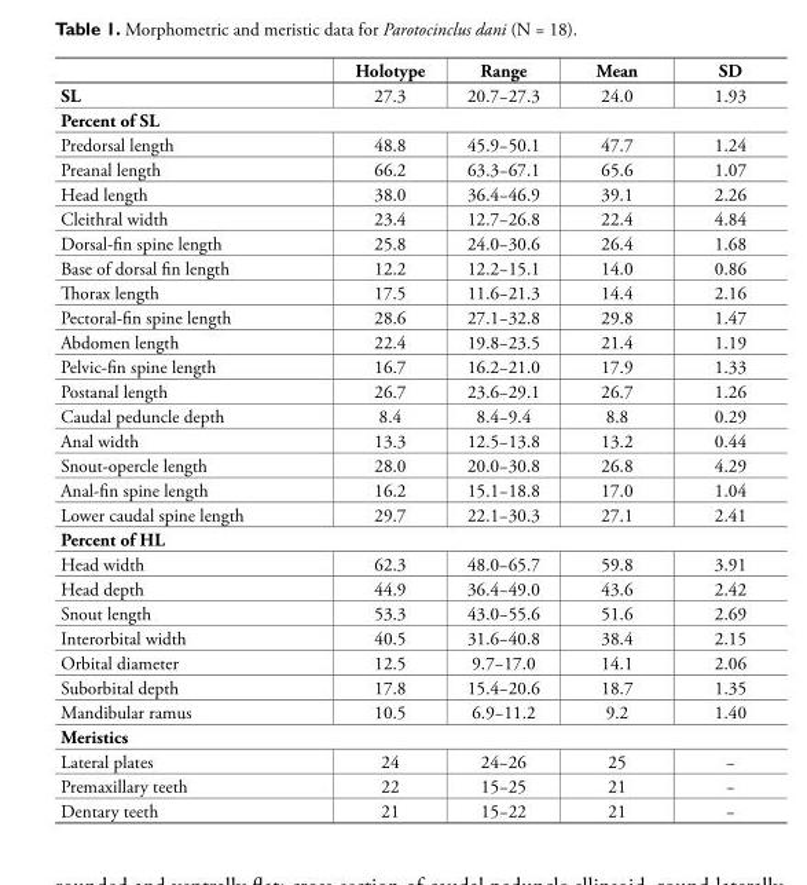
<table><thead><tr><td></td><td>Holotype</td><td>Range</td><td>Mean</td><td>SD</td></tr></thead><tbody><tr><td>SL</td><td>27.3</td><td>20.7−27.3</td><td>24.0</td><td>1.93</td></tr><tr><td colspan="5">Percent of SL</td></tr><tr><td>Predorsal length</td><td>48.8</td><td>45.9−50.1</td><td>47.7</td><td>1.24</td></tr><tr><td>Preanal length</td><td>66.2</td><td>63.3−67.1</td><td>65.6</td><td>1.07</td></tr><tr><td>Head length</td><td>38.0</td><td>36.4−46.9</td><td>39.1</td><td>2.26</td></tr><tr><td>Cleithral width</td><td>23.4</td><td>12.7−26.8</td><td>22.4</td><td>4.84</td></tr><tr><td>Dorsal-fin spine length</td><td>25.8</td><td>24.0−30.6</td><td>26.4</td><td>1.68</td></tr><tr><td>Base of dorsal fin length</td><td>12.2</td><td>12.2−15.1</td><td>14.0</td><td>0.86</td></tr><tr><td>Thorax length</td><td>17.5</td><td>11.6−21.3</td><td>14.4</td><td>2.16</td></tr><tr><td>Pectoral-fin spine length</td><td>28.6</td><td>27.1−32.8</td><td>29.8</td><td>1.47</td></tr><tr><td>Abdomen length</td><td>22.4</td><td>19.8−23.5</td><td>21.4</td><td>1.19</td></tr><tr><td>Pelvic-fin spine length</td><td>16.7</td><td>16.2−21.0</td><td>17.9</td><td>1.33</td></tr><tr><td>Postanal length</td><td>26.7</td><td>23.6−29.1</td><td>26.7</td><td>1.26</td></tr><tr><td>Caudal peduncle depth</td><td>8.4</td><td>8.4−9.4</td><td>8.8</td><td>0.29</td></tr><tr><td>Anal width</td><td>13.3</td><td>12.5−13.8</td><td>13.2</td><td>0.44</td></tr><tr><td>Snout-opercle length</td><td>28.0</td><td>20.0−30.8</td><td>26.8</td><td>4.29</td></tr><tr><td>Anal-fin spine length</td><td>16.2</td><td>15.1−18.8</td><td>17.0</td><td>1.04</td></tr><tr><td>Lower caudal spine length</td><td>29.7</td><td>22.1−30.3</td><td>27.1</td><td>2.41</td></tr><tr><td colspan="5">Percent of HL</td></tr><tr><td>Head width</td><td>62.3</td><td>48.0−65.7</td><td>59.8</td><td>3.91</td></tr><tr><td>Head depth</td><td>44.9</td><td>36.4−49.0</td><td>43.6</td><td>2.42</td></tr><tr><td>Snout length</td><td>53.3</td><td>43.0−55.6</td><td>51.6</td><td>2.69</td></tr><tr><td>Interorbital width</td><td>40.5</td><td>31.6−40.8</td><td>38.4</td><td>2.15</td></tr><tr><td>Orbital diameter</td><td>12.5</td><td>9.7−17.0</td><td>14.1</td><td>2.06</td></tr><tr><td>Suborbital depth</td><td>17.8</td><td>15.4−20.6</td><td>18.7</td><td>1.35</td></tr><tr><td>Mandibular ramus</td><td>10.5</td><td>6.9−11.2</td><td>9.2</td><td>1.40</td></tr><tr><td colspan="5">Meristics</td></tr><tr><td>Lateral plates</td><td>24</td><td>24−26</td><td>25</td><td>−</td></tr><tr><td>Premaxillary teeth</td><td>22</td><td>15−25</td><td>21</td><td>−</td></tr><tr><td>Dentary teeth</td><td>21</td><td>15−22</td><td>21</td><td>−</td></tr></tbody></table>